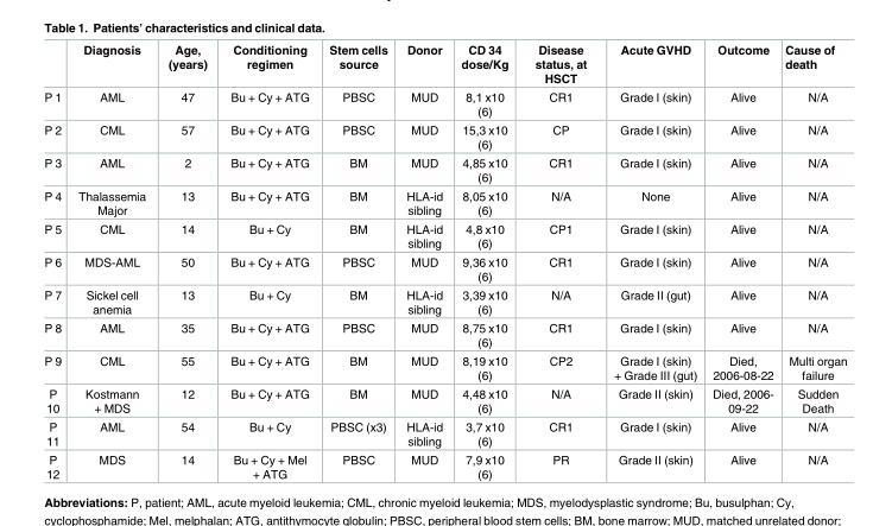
<table><thead><tr><td></td><td>Diagnosis</td><td>Age, (years)</td><td>Conditioning regimen</td><td>Stem cells source</td><td>Donor</td><td>CD 34 dose/Kg</td><td>Disease status, at HSCT</td><td>Acute GVHD</td><td>Outcome</td><td>Cause of death</td></tr></thead><tbody><tr><td>P 1</td><td>AML</td><td>47</td><td>Bu + Cy + ATG</td><td>PBSC</td><td>MUD</td><td>8,1 x10 (6)</td><td>CR1</td><td>Grade I (skin)</td><td>Alive</td><td>N/A</td></tr><tr><td>P 2</td><td>CML</td><td>57</td><td>Bu + Cy + ATG</td><td>PBSC</td><td>MUD</td><td>15,3 x10 (6)</td><td>CP</td><td>Grade I (skin)</td><td>Alive</td><td>N/A</td></tr><tr><td>P 3</td><td>AML</td><td>2</td><td>Bu + Cy + ATG</td><td>BM</td><td>MUD</td><td>4,85 x10 (6)</td><td>CR1</td><td>Grade I (skin)</td><td>Alive</td><td>N/A</td></tr><tr><td>P 4</td><td>Thalassemia Major</td><td>13</td><td>Bu + Cy + ATG</td><td>BM</td><td>HLA-id sibling</td><td>8,05 x10 (6)</td><td>N/A</td><td>None</td><td>Alive</td><td>N/A</td></tr><tr><td>P 5</td><td>CML</td><td>14</td><td>Bu + Cy</td><td>BM</td><td>HLA-id sibling</td><td>4,8 x10 (6)</td><td>CP1</td><td>Grade I (skin)</td><td>Alive</td><td>N/A</td></tr><tr><td>P 6</td><td>MDS-AML</td><td>50</td><td>Bu + Cy + ATG</td><td>PBSC</td><td>MUD</td><td>9,36 x10 (6)</td><td>CR1</td><td>Grade I (skin)</td><td>Alive</td><td>N/A</td></tr><tr><td>P 7</td><td>Sickel cell anemia</td><td>13</td><td>Bu + Cy</td><td>BM</td><td>HLA-id sibling</td><td>3,39 x10 (6)</td><td>N/A</td><td>Grade II (gut)</td><td>Alive</td><td>N/A</td></tr><tr><td>P 8</td><td>AML</td><td>35</td><td>Bu + Cy + ATG</td><td>PBSC</td><td>MUD</td><td>8,75 x10 (6)</td><td>CR1</td><td>Grade I (skin)</td><td>Alive</td><td>N/A</td></tr><tr><td>P 9</td><td>CML</td><td>55</td><td>Bu + Cy + ATG</td><td>BM</td><td>MUD</td><td>8,19 x10 (6)</td><td>CP2</td><td>Grade I (skin) + Grade III (gut)</td><td>Died, 2006-08-22</td><td>Multi organ failure</td></tr><tr><td>P 10</td><td>Kostmann + MDS</td><td>12</td><td>Bu + Cy + ATG</td><td>BM</td><td>MUD</td><td>4,48 x10 (6)</td><td>N/A</td><td>Grade II (skin)</td><td>Died, 2006- 09-22</td><td>Sudden Death</td></tr><tr><td>P 11</td><td>AML</td><td>54</td><td>Bu + Cy</td><td>PBSC (x3)</td><td>HLA-id sibling</td><td>3,7 x10 (6)</td><td>CR1</td><td>Grade I (skin)</td><td>Alive</td><td>N/A</td></tr><tr><td>P 12</td><td>MDS</td><td>14</td><td>Bu + Cy + Mel + ATG</td><td>PBSC</td><td>MUD</td><td>7,9 x10 (6)</td><td>PR</td><td>Grade II (skin)</td><td>Alive</td><td>N/A</td></tr></tbody></table>